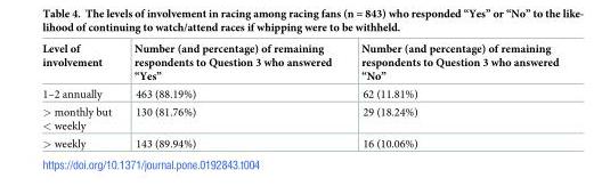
<table><thead><tr><td>Level of involvement</td><td>Number (and percentage) of remaining respondents to Question 3 who answered “Yes”</td><td>Number (and percentage) of remaining respondents to Question 3 who answered “No”</td></tr></thead><tbody><tr><td>1–2 annually</td><td>463 (88.19%)</td><td>62 (11.81%)</td></tr><tr><td>&gt; monthly but &lt; weekly</td><td>130 (81.76%)</td><td>29 (18.24%)</td></tr><tr><td>&gt; weekly</td><td>143 (89.94%)</td><td>16 (10.06%)</td></tr></tbody></table>